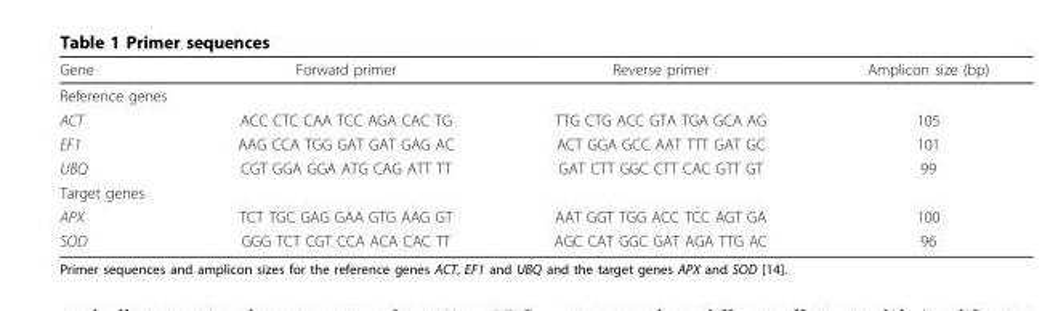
<table><thead><tr><td>Gene</td><td>Forward primer</td><td>Reverse primer</td><td>Amplicon size (bp)</td></tr></thead><tbody><tr><td colspan="4">Reference genes</td></tr><tr><td>ACT</td><td>ACC CTC CAA TCC AGA CAC TG</td><td>TTG CTG ACC GTA TGA GCA AG</td><td>105</td></tr><tr><td>EF1</td><td>AAG CCA TGG GAT GAT GAG AC</td><td>ACT GGA GCC AAT TTT GAT GC</td><td>101</td></tr><tr><td>UBQ</td><td>CGT GGA GGA ATG CAG ATT TT</td><td>GAT CTT GGC CTT CAC GTT GT</td><td>99</td></tr><tr><td colspan="4">Target genes</td></tr><tr><td>APX</td><td>TCT TGC GAG GAA GTG AAG GT</td><td>AAT GGT TGG ACC TCC AGT GA</td><td>100</td></tr><tr><td>SOD</td><td>GGG TCT CGT CCA ACA CAC TT</td><td>AGC CAT GGC GAT AGA TTG AC</td><td>96</td></tr></tbody></table>